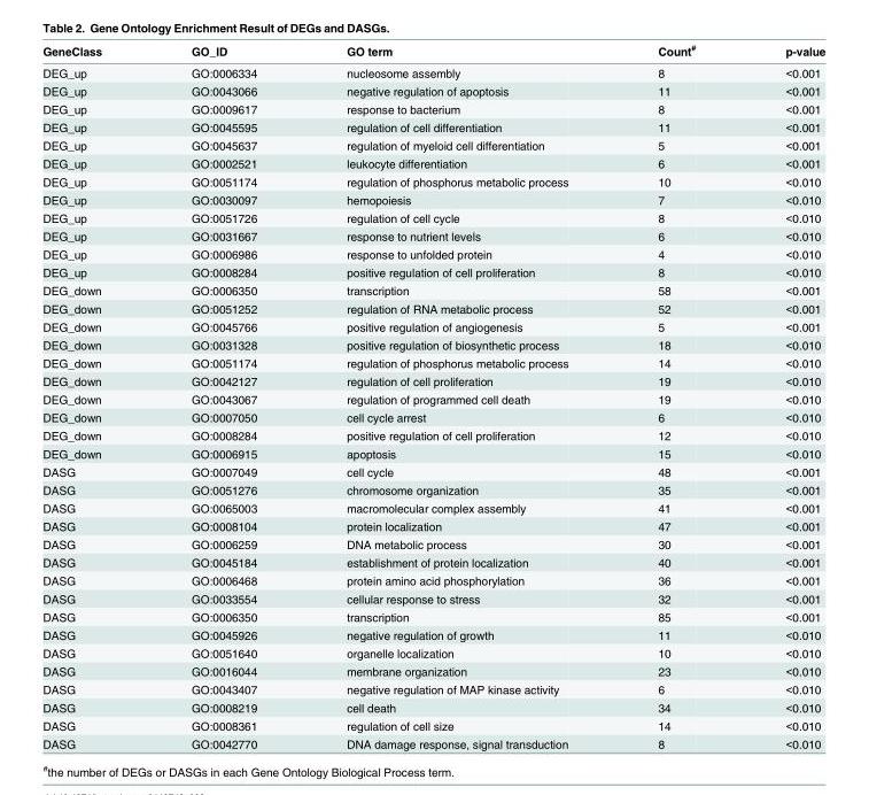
<table><thead><tr><td>GeneClass</td><td>GO_ID</td><td>GO term</td><td>Count<sup>#</sup></td><td>p-value</td></tr></thead><tbody><tr><td>DEG_up</td><td>GO:0006334</td><td>nucleosome assembly</td><td>8</td><td>&lt;0.001</td></tr><tr><td>DEG_up</td><td>GO:0043066</td><td>negative regulation of apoptosis</td><td>11</td><td>&lt;0.001</td></tr><tr><td>DEG_up</td><td>GO:0009617</td><td>response to bacterium</td><td>8</td><td>&lt;0.001</td></tr><tr><td>DEG_up</td><td>GO:0045595</td><td>regulation of cell differentiation</td><td>11</td><td>&lt;0.001</td></tr><tr><td>DEG_up</td><td>GO:0045637</td><td>regulation of myeloid cell differentiation</td><td>5</td><td>&lt;0.001</td></tr><tr><td>DEG_up</td><td>GO:0002521</td><td>leukocyte differentiation</td><td>6</td><td>&lt;0.001</td></tr><tr><td>DEG_up</td><td>GO:0051174</td><td>regulation of phosphorus metabolic process</td><td>10</td><td>&lt;0.010</td></tr><tr><td>DEG_up</td><td>GO:0030097</td><td>hemopoiesis</td><td>7</td><td>&lt;0.010</td></tr><tr><td>DEG_up</td><td>GO:0051726</td><td>regulation of cell cycle</td><td>8</td><td>&lt;0.010</td></tr><tr><td>DEG_up</td><td>GO:0031667</td><td>response to nutrient levels</td><td>6</td><td>&lt;0.010</td></tr><tr><td>DEG_up</td><td>GO:0006986</td><td>response to unfolded protein</td><td>4</td><td>&lt;0.010</td></tr><tr><td>DEG_up</td><td>GO:0008284</td><td>positive regulation of cell proliferation</td><td>8</td><td>&lt;0.010</td></tr><tr><td>DEG_down</td><td>GO:0006350</td><td>transcription</td><td>58</td><td>&lt;0.001</td></tr><tr><td>DEG_down</td><td>GO:0051252</td><td>regulation of RNA metabolic process</td><td>52</td><td>&lt;0.001</td></tr><tr><td>DEG_down</td><td>GO:0045766</td><td>positive regulation of angiogenesis</td><td>5</td><td>&lt;0.001</td></tr><tr><td>DEG_down</td><td>GO:0031328</td><td>positive regulation of biosynthetic process</td><td>18</td><td>&lt;0.010</td></tr><tr><td>DEG_down</td><td>GO:0051174</td><td>regulation of phosphorus metabolic process</td><td>14</td><td>&lt;0.010</td></tr><tr><td>DEG_down</td><td>GO:0042127</td><td>regulation of cell proliferation</td><td>19</td><td>&lt;0.010</td></tr><tr><td>DEG_down</td><td>GO:0043067</td><td>regulation of programmed cell death</td><td>19</td><td>&lt;0.010</td></tr><tr><td>DEG_down</td><td>GO:0007050</td><td>cell cycle arrest</td><td>6</td><td>&lt;0.010</td></tr><tr><td>DEG_down</td><td>GO:0008284</td><td>positive regulation of cell proliferation</td><td>12</td><td>&lt;0.010</td></tr><tr><td>DEG_down</td><td>GO:0006915</td><td>apoptosis</td><td>15</td><td>&lt;0.010</td></tr><tr><td>DASG</td><td>GO:0007049</td><td>cell cycle</td><td>48</td><td>&lt;0.001</td></tr><tr><td>DASG</td><td>GO:0051276</td><td>chromosome organization</td><td>35</td><td>&lt;0.001</td></tr><tr><td>DASG</td><td>GO:0065003</td><td>macromolecular complex assembly</td><td>41</td><td>&lt;0.001</td></tr><tr><td>DASG</td><td>GO:0008104</td><td>protein localization</td><td>47</td><td>&lt;0.001</td></tr><tr><td>DASG</td><td>GO:0006259</td><td>DNA metabolic process</td><td>30</td><td>&lt;0.001</td></tr><tr><td>DASG</td><td>GO:0045184</td><td>establishment of protein localization</td><td>40</td><td>&lt;0.001</td></tr><tr><td>DASG</td><td>GO:0006468</td><td>protein amino acid phosphorylation</td><td>36</td><td>&lt;0.001</td></tr><tr><td>DASG</td><td>GO:0033554</td><td>cellular response to stress</td><td>32</td><td>&lt;0.001</td></tr><tr><td>DASG</td><td>GO:0006350</td><td>transcription</td><td>85</td><td>&lt;0.001</td></tr><tr><td>DASG</td><td>GO:0045926</td><td>negative regulation of growth</td><td>11</td><td>&lt;0.010</td></tr><tr><td>DASG</td><td>GO:0051640</td><td>organelle localization</td><td>10</td><td>&lt;0.010</td></tr><tr><td>DASG</td><td>GO:0016044</td><td>membrane organization</td><td>23</td><td>&lt;0.010</td></tr><tr><td>DASG</td><td>GO:0043407</td><td>negative regulation of MAP kinase activity</td><td>6</td><td>&lt;0.010</td></tr><tr><td>DASG</td><td>GO:0008219</td><td>cell death</td><td>34</td><td>&lt;0.010</td></tr><tr><td>DASG</td><td>GO:0008361</td><td>regulation of cell size</td><td>14</td><td>&lt;0.010</td></tr><tr><td>DASG</td><td>GO:0042770</td><td>DNA damage response, signal transduction</td><td>8</td><td>&lt;0.010</td></tr></tbody></table>